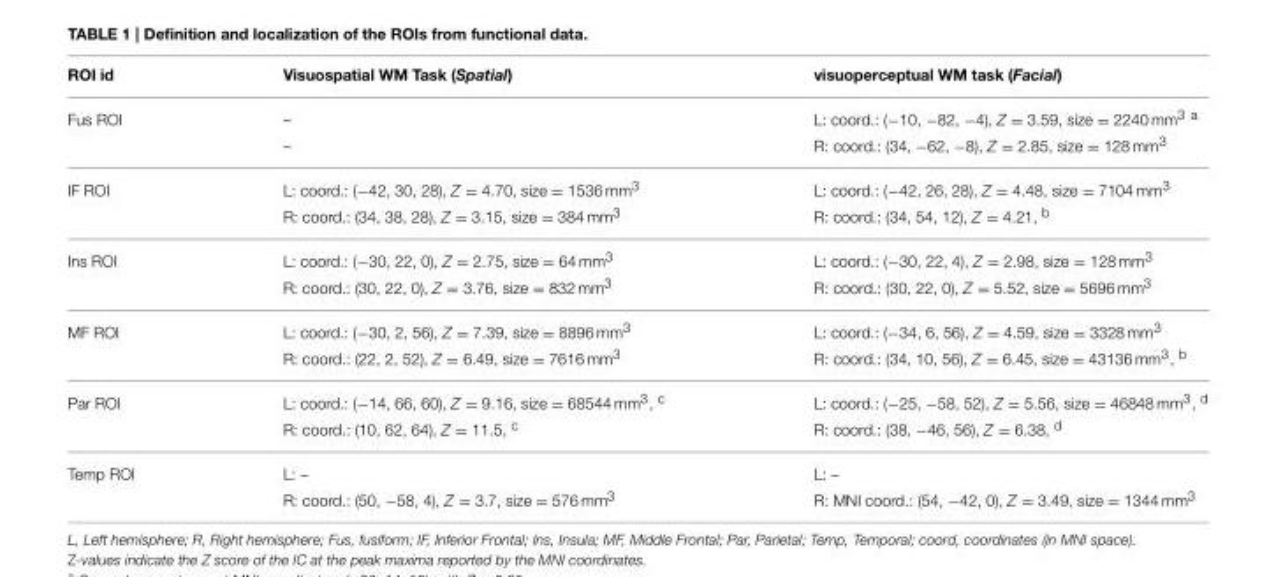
<table><thead><tr><td>ROI id</td><td>Visuospatial WM Task (Spatial)</td><td>visuoperceptual WM task (Facial)</td></tr></thead><tbody><tr><td rowspan="2">Fus ROI</td><td>–</td><td>L: coord.: (−10, −82, −4), Z = 3.59, size = 2240 mm<sup>3 a</sup></td></tr><tr><td>–</td><td>R: coord.: (34, −62, −8), Z = 2.85, size = 128 mm<sup>3</sup></td></tr><tr><td rowspan="2">IF ROI</td><td>L: coord.: (−42, 30, 28), Z = 4.70, size = 1536 mm<sup>3</sup></td><td>L: coord.: (−42, 26, 28), Z = 4.48, size = 7104 mm<sup>3</sup></td></tr><tr><td>R: coord.: (34, 38, 28), Z = 3.15, size = 384 mm<sup>3</sup></td><td>R: coord.: (34, 54, 12), Z = 4.21, <sup>b</sup></td></tr><tr><td rowspan="2">Ins ROI</td><td>L: coord.: (−30, 22, 0), Z = 2.75, size = 64 mm<sup>3</sup></td><td>L: coord.: (−30, 22, 4), Z = 2.98, size = 128 mm<sup>3</sup></td></tr><tr><td>R: coord.: (30, 22, 0), Z = 3.76, size = 832 mm<sup>3</sup></td><td>R: coord.: (30, 22, 0), Z = 5.52, size = 5696 mm<sup>3</sup></td></tr><tr><td rowspan="2">MF ROI</td><td>L: coord.: (−30, 2, 56), Z = 7.39, size = 8896 mm<sup>3</sup></td><td>L: coord.: (−34, 6, 56), Z = 4.59, size = 3328 mm<sup>3</sup></td></tr><tr><td>R: coord.: (22, 2, 52), Z = 6.49, size = 7616 mm<sup>3</sup></td><td>R: coord.: (34, 10, 56), Z = 6.45, size = 43136 mm<sup>3</sup>, <sup>b</sup></td></tr><tr><td rowspan="2">Par ROI</td><td>L: coord.: (−14, 66, 60), Z = 9.16, size = 68544 mm<sup>3</sup>, <sup>c</sup></td><td>L: coord.: (−25, −58, 52), Z = 5.56, size = 46848 mm<sup>3</sup>, <sup>d</sup></td></tr><tr><td>R: coord.: (10, 62, 64), Z = 11.5, <sup>c</sup></td><td>R: coord.: (38, −46, 56), Z = 6.38, <sup>d</sup></td></tr><tr><td rowspan="2">Temp ROI</td><td>L: –</td><td>L: –</td></tr><tr><td>R: coord.: (50, −58, 4), Z = 3.7, size = 576 mm<sup>3</sup></td><td>R: MNI coord.: (54, −42, 0), Z = 3.49, size = 1344 mm<sup>3</sup></td></tr></tbody></table>